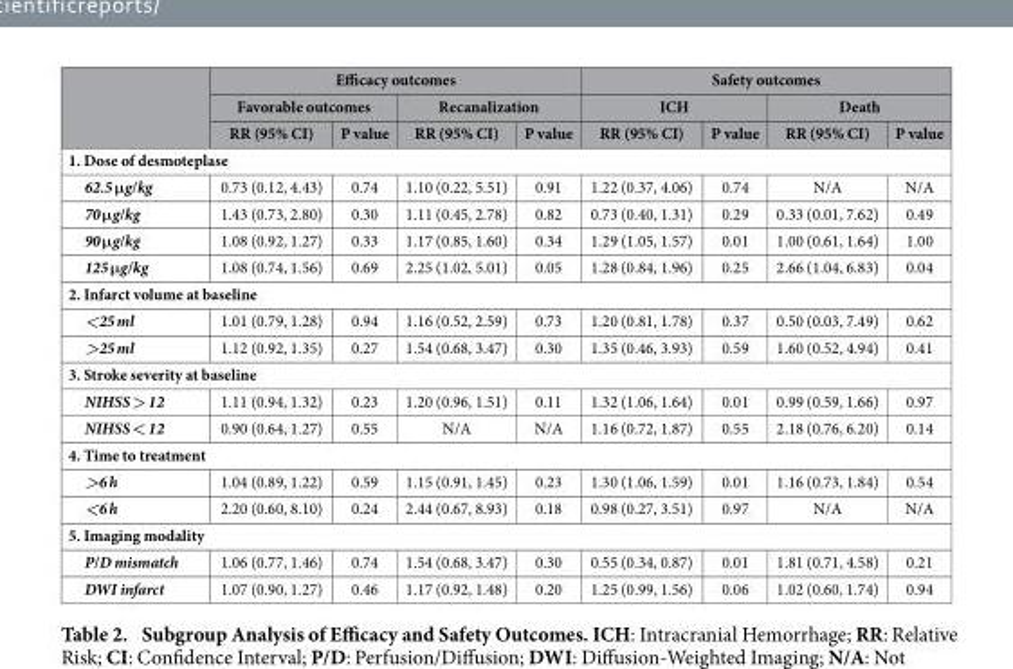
<table><thead><tr><td rowspan="3"></td><td colspan="4">Efficacy outcomes</td><td colspan="4">Safety outcomes</td></tr><tr><td colspan="2">Favorable outcomes</td><td colspan="2">Recanalization</td><td colspan="2">ICH</td><td colspan="2">Death</td></tr><tr><td>RR (95% CI)</td><td>P value</td><td>RR (95% CI)</td><td>P value</td><td>RR (95% CI)</td><td>P value</td><td>RR (95% CI)</td><td>P value</td></tr></thead><tbody><tr><td colspan="9">1. Dose of desmoteplase</td></tr><tr><td>62.5 μg/kg</td><td>0.73 (0.12, 4.43)</td><td>0.74</td><td>1.10 (0.22, 5.51)</td><td>0.91</td><td>1.22 (0.37, 4.06)</td><td>0.74</td><td>N/A</td><td>N/A</td></tr><tr><td>70 μg/kg</td><td>1.43 (0.73, 2.80)</td><td>0.30</td><td>1.11 (0.45, 2.78)</td><td>0.82</td><td>0.73 (0.40, 1.31)</td><td>0.29</td><td>0.33 (0.01, 7.62)</td><td>0.49</td></tr><tr><td>90 μg/kg</td><td>1.08 (0.92, 1.27)</td><td>0.33</td><td>1.17 (0.85, 1.60)</td><td>0.34</td><td>1.29 (1.05, 1.57)</td><td>0.01</td><td>1.00 (0.61, 1.64)</td><td>1.00</td></tr><tr><td>125 μg/kg</td><td>1.08 (0.74, 1.56)</td><td>0.69</td><td>2.25 (1.02, 5.01)</td><td>0.05</td><td>1.28 (0.84, 1.96)</td><td>0.25</td><td>2.66 (1.04, 6.83)</td><td>0.04</td></tr><tr><td colspan="9">2. Infarct volume at baseline</td></tr><tr><td>&lt;25 ml</td><td>1.01 (0.79, 1.28)</td><td>0.94</td><td>1.16 (0.52, 2.59)</td><td>0.73</td><td>1.20 (0.81, 1.78)</td><td>0.37</td><td>0.50 (0.03, 7.49)</td><td>0.62</td></tr><tr><td>&gt;25 ml</td><td>1.12 (0.92, 1.35)</td><td>0.27</td><td>1.54 (0.68, 3.47)</td><td>0.30</td><td>1.35 (0.46, 3.93)</td><td>0.59</td><td>1.60 (0.52, 4.94)</td><td>0.41</td></tr><tr><td colspan="9">3. Stroke severity at baseline</td></tr><tr><td>NIHSS &gt; 12</td><td>1.11 (0.94, 1.32)</td><td>0.23</td><td>1.20 (0.96, 1.51)</td><td>0.11</td><td>1.32 (1.06, 1.64)</td><td>0.01</td><td>0.99 (0.59, 1.66)</td><td>0.97</td></tr><tr><td>NIHSS &lt; 12</td><td>0.90 (0.64, 1.27)</td><td>0.55</td><td>N/A</td><td>N/A</td><td>1.16 (0.72, 1.87)</td><td>0.55</td><td>2.18 (0.76, 6.20)</td><td>0.14</td></tr><tr><td colspan="9">4. Time to treatment</td></tr><tr><td>&gt;6 h</td><td>1.04 (0.89, 1.22)</td><td>0.59</td><td>1.15 (0.91, 1.45)</td><td>0.23</td><td>1.30 (1.06, 1.59)</td><td>0.01</td><td>1.16 (0.73, 1.84)</td><td>0.54</td></tr><tr><td>&lt;6 h</td><td>2.20 (0.60, 8.10)</td><td>0.24</td><td>2.44 (0.67, 8.93)</td><td>0.18</td><td>0.98 (0.27, 3.51)</td><td>0.97</td><td>N/A</td><td>N/A</td></tr><tr><td colspan="9">5. Imaging modality</td></tr><tr><td>P/D mismatch</td><td>1.06 (0.77, 1.46)</td><td>0.74</td><td>1.54 (0.68, 3.47)</td><td>0.30</td><td>0.55 (0.34, 0.87)</td><td>0.01</td><td>1.81 (0.71, 4.58)</td><td>0.21</td></tr><tr><td>DWI infarct</td><td>1.07 (0.90, 1.27)</td><td>0.46</td><td>1.17 (0.92, 1.48)</td><td>0.20</td><td>1.25 (0.99, 1.56)</td><td>0.06</td><td>1.02 (0.60, 1.74)</td><td>0.94</td></tr></tbody></table>